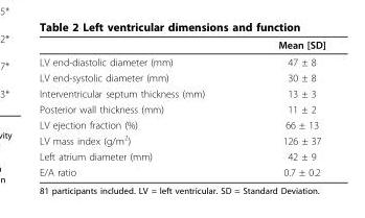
<table><thead><tr><td></td><td>Mean [SD]</td></tr></thead><tbody><tr><td>LV end-diastolic diameter (mm)</td><td>47 ± 8</td></tr><tr><td>LV end-systolic diameter (mm)</td><td>30 ± 8</td></tr><tr><td>Interventricular septum thickness (mm)</td><td>13 ± 3</td></tr><tr><td>Posterior wall thickness (mm)</td><td>11 ± 2</td></tr><tr><td>LV ejection fraction (%)</td><td>66 ± 13</td></tr><tr><td>LV mass index (g/m<sup>2</sup>)</td><td>126 ± 37</td></tr><tr><td>Left atrium diameter (mm)</td><td>42 ± 9</td></tr><tr><td>E/A ratio</td><td>0.7 ± 0.2</td></tr></tbody></table>